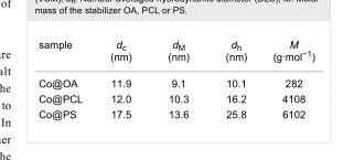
<table><tbody><tr><td>sample</td><td>d<sub>c</sub> (nm)</td><td>d<sub>M</sub> (nm)</td><td>d<sub>h</sub> (nm)</td><td>M (g∙mol<sup>−1</sup>)</td></tr><tr><td>Co@OA</td><td>11.9</td><td>9.1</td><td>10.1</td><td>282</td></tr><tr><td>Co@PCL</td><td>12.0</td><td>10.3</td><td>16.2</td><td>4108</td></tr><tr><td>Co@PS</td><td>17.5</td><td>13.6</td><td>25.8</td><td>6102</td></tr></tbody></table>